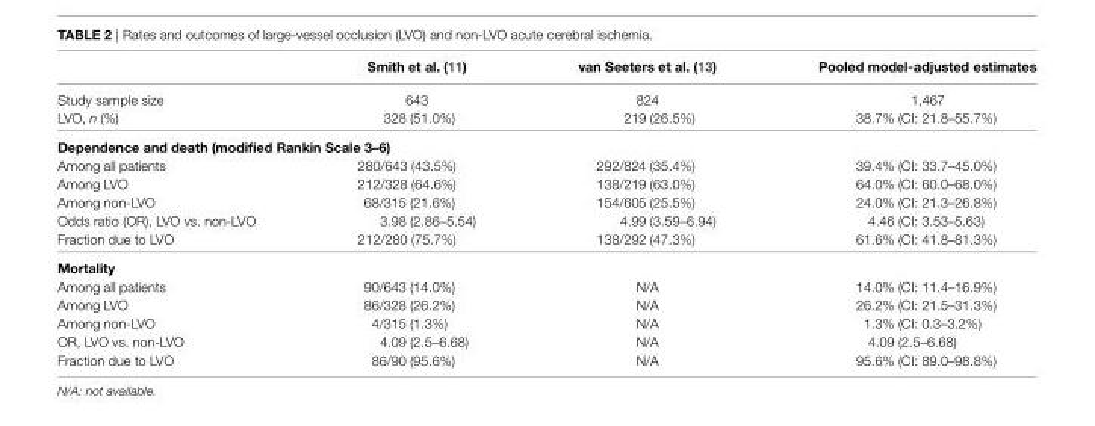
<table><thead><tr><td></td><td>Smith et al. (11)</td><td>van Seeters et al. (13)</td><td>Pooled model-adjusted estimates</td></tr></thead><tbody><tr><td>Study sample size</td><td>643</td><td>824</td><td>1,467</td></tr><tr><td>LVO, n (%)</td><td>328 (51.0%)</td><td>219 (26.5%)</td><td>38.7% (CI: 21.8–55.7%)</td></tr><tr><td colspan="4">Dependence and death (modified Rankin Scale 3–6)</td></tr><tr><td>Among all patients</td><td>280/643 (43.5%)</td><td>292/824 (35.4%)</td><td>39.4% (CI: 33.7–45.0%)</td></tr><tr><td>Among LVO</td><td>212/328 (64.6%)</td><td>138/219 (63.0%)</td><td>64.0% (CI: 60.0–68.0%)</td></tr><tr><td>Among non-LVO</td><td>68/315 (21.6%)</td><td>154/605 (25.5%)</td><td>24.0% (CI: 21.3–26.8%)</td></tr><tr><td>Odds ratio (OR), LVO vs. non-LVO</td><td>3.98 (2.86–5.54)</td><td>4.99 (3.59–6.94)</td><td>4.46 (CI: 3.53–5.63)</td></tr><tr><td>Fraction due to LVO</td><td>212/280 (75.7%)</td><td>138/292 (47.3%)</td><td>61.6% (CI: 41.8–81.3%)</td></tr><tr><td colspan="4">Mortality</td></tr><tr><td>Among all patients</td><td>90/643 (14.0%)</td><td>N/A</td><td>14.0% (CI: 11.4–16.9%)</td></tr><tr><td>Among LVO</td><td>86/328 (26.2%)</td><td>N/A</td><td>26.2% (CI: 21.5–31.3%)</td></tr><tr><td>Among non-LVO</td><td>4/315 (1.3%)</td><td>N/A</td><td>1.3% (CI: 0.3–3.2%)</td></tr><tr><td>OR, LVO vs. non-LVO</td><td>4.09 (2.5–6.68)</td><td>N/A</td><td>4.09 (2.5–6.68)</td></tr><tr><td>Fraction due to LVO</td><td>86/90 (95.6%)</td><td>N/A</td><td>95.6% (CI: 89.0–98.8%)</td></tr></tbody></table>